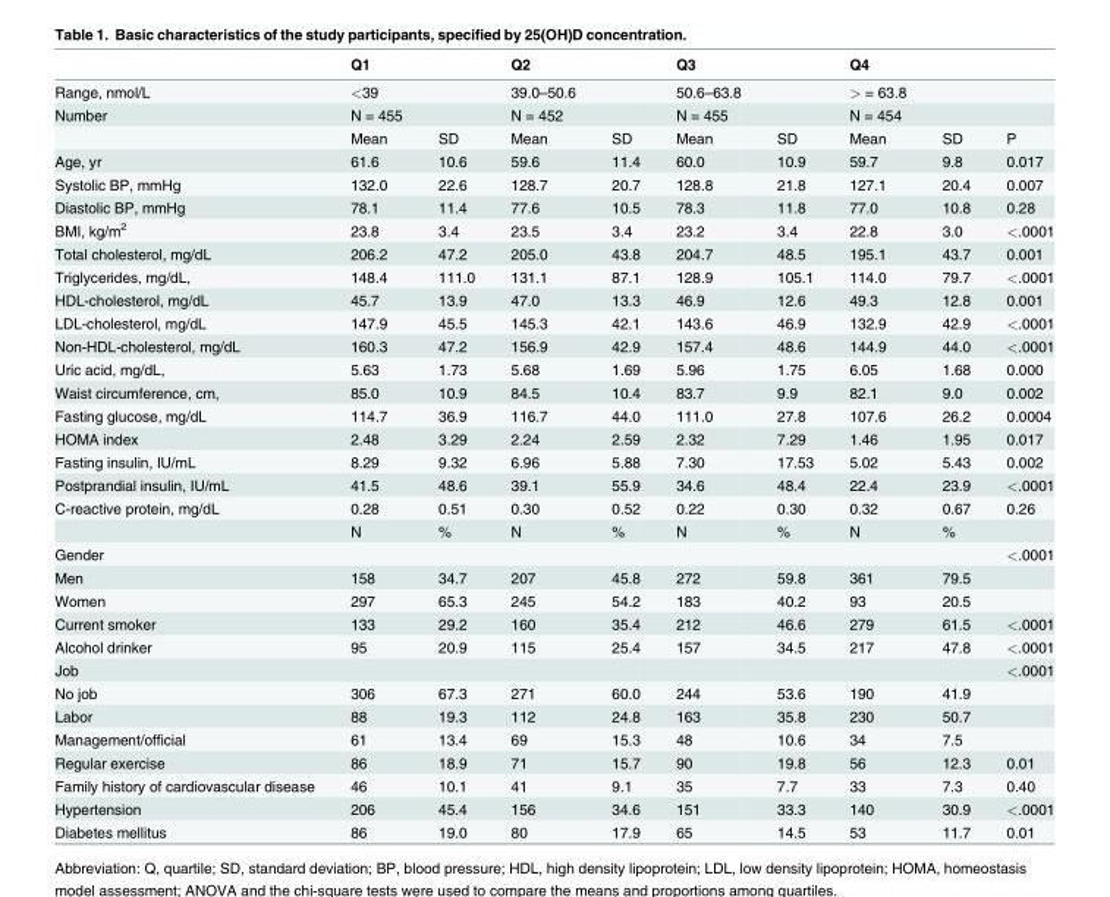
<table><thead><tr><td></td><td>Q1</td><td></td><td>Q2</td><td></td><td>Q3</td><td></td><td>Q4</td><td></td><td></td></tr></thead><tbody><tr><td>Range, nmol/L</td><td>&lt;39</td><td></td><td>39.0–50.6</td><td></td><td>50.6–63.8</td><td></td><td>&gt; = 63.8</td><td></td><td></td></tr><tr><td rowspan="2">Number</td><td>N = 455</td><td></td><td>N = 452</td><td></td><td>N = 455</td><td></td><td>N = 454</td><td></td><td></td></tr><tr><td>Mean</td><td>SD</td><td>Mean</td><td>SD</td><td>Mean</td><td>SD</td><td>Mean</td><td>SD</td><td>P</td></tr><tr><td>Age, yr</td><td>61.6</td><td>10.6</td><td>59.6</td><td>11.4</td><td>60.0</td><td>10.9</td><td>59.7</td><td>9.8</td><td>0.017</td></tr><tr><td>Systolic BP, mmHg</td><td>132.0</td><td>22.6</td><td>128.7</td><td>20.7</td><td>128.8</td><td>21.8</td><td>127.1</td><td>20.4</td><td>0.007</td></tr><tr><td>Diastolic BP, mmHg</td><td>78.1</td><td>11.4</td><td>77.6</td><td>10.5</td><td>78.3</td><td>11.8</td><td>77.0</td><td>10.8</td><td>0.28</td></tr><tr><td>BMI, kg/m<sup>2</sup></td><td>23.8</td><td>3.4</td><td>23.5</td><td>3.4</td><td>23.2</td><td>3.4</td><td>22.8</td><td>3.0</td><td>&lt;.0001</td></tr><tr><td>Total cholesterol, mg/dL</td><td>206.2</td><td>47.2</td><td>205.0</td><td>43.8</td><td>204.7</td><td>48.5</td><td>195.1</td><td>43.7</td><td>0.001</td></tr><tr><td>Triglycerides, mg/dL,</td><td>148.4</td><td>111.0</td><td>131.1</td><td>87.1</td><td>128.9</td><td>105.1</td><td>114.0</td><td>79.7</td><td>&lt;.0001</td></tr><tr><td>HDL-cholesterol, mg/dL</td><td>45.7</td><td>13.9</td><td>47.0</td><td>13.3</td><td>46.9</td><td>12.6</td><td>49.3</td><td>12.8</td><td>0.001</td></tr><tr><td>LDL-cholesterol, mg/dL</td><td>147.9</td><td>45.5</td><td>145.3</td><td>42.1</td><td>143.6</td><td>46.9</td><td>132.9</td><td>42.9</td><td>&lt;.0001</td></tr><tr><td>Non-HDL-cholesterol, mg/dL</td><td>160.3</td><td>47.2</td><td>156.9</td><td>42.9</td><td>157.4</td><td>48.6</td><td>144.9</td><td>44.0</td><td>&lt;.0001</td></tr><tr><td>Uric acid, mg/dL,</td><td>5.63</td><td>1.73</td><td>5.68</td><td>1.69</td><td>5.96</td><td>1.75</td><td>6.05</td><td>1.68</td><td>0.000</td></tr><tr><td>Waist circumference, cm,</td><td>85.0</td><td>10.9</td><td>84.5</td><td>10.4</td><td>83.7</td><td>9.9</td><td>82.1</td><td>9.0</td><td>0.002</td></tr><tr><td>Fasting glucose, mg/dL</td><td>114.7</td><td>36.9</td><td>116.7</td><td>44.0</td><td>111.0</td><td>27.8</td><td>107.6</td><td>26.2</td><td>0.0004</td></tr><tr><td>HOMA index</td><td>2.48</td><td>3.29</td><td>2.24</td><td>2.59</td><td>2.32</td><td>7.29</td><td>1.46</td><td>1.95</td><td>0.017</td></tr><tr><td>Fasting insulin, IU/mL</td><td>8.29</td><td>9.32</td><td>6.96</td><td>5.88</td><td>7.30</td><td>17.53</td><td>5.02</td><td>5.43</td><td>0.002</td></tr><tr><td>Postprandial insulin, IU/mL</td><td>41.5</td><td>48.6</td><td>39.1</td><td>55.9</td><td>34.6</td><td>48.4</td><td>22.4</td><td>23.9</td><td>&lt;.0001</td></tr><tr><td rowspan="2">C-reactive protein, mg/dL</td><td>0.28</td><td>0.51</td><td>0.30</td><td>0.52</td><td>0.22</td><td>0.30</td><td>0.32</td><td>0.67</td><td>0.26</td></tr><tr><td>N</td><td>%</td><td>N</td><td>%</td><td>N</td><td>%</td><td>N</td><td>%</td><td></td></tr><tr><td>Gender</td><td></td><td></td><td></td><td></td><td></td><td></td><td></td><td></td><td>&lt;.0001</td></tr><tr><td>Men</td><td>158</td><td>34.7</td><td>207</td><td>45.8</td><td>272</td><td>59.8</td><td>361</td><td>79.5</td><td></td></tr><tr><td>Women</td><td>297</td><td>65.3</td><td>245</td><td>54.2</td><td>183</td><td>40.2</td><td>93</td><td>20.5</td><td></td></tr><tr><td>Current smoker</td><td>133</td><td>29.2</td><td>160</td><td>35.4</td><td>212</td><td>46.6</td><td>279</td><td>61.5</td><td>&lt;.0001</td></tr><tr><td>Alcohol drinker</td><td>95</td><td>20.9</td><td>115</td><td>25.4</td><td>157</td><td>34.5</td><td>217</td><td>47.8</td><td>&lt;.0001</td></tr><tr><td>Job</td><td></td><td></td><td></td><td></td><td></td><td></td><td></td><td></td><td>&lt;.0001</td></tr><tr><td>No job</td><td>306</td><td>67.3</td><td>271</td><td>60.0</td><td>244</td><td>53.6</td><td>190</td><td>41.9</td><td></td></tr><tr><td>Labor</td><td>88</td><td>19.3</td><td>112</td><td>24.8</td><td>163</td><td>35.8</td><td>230</td><td>50.7</td><td></td></tr><tr><td>Management/official</td><td>61</td><td>13.4</td><td>69</td><td>15.3</td><td>48</td><td>10.6</td><td>34</td><td>7.5</td><td></td></tr><tr><td>Regular exercise</td><td>86</td><td>18.9</td><td>71</td><td>15.7</td><td>90</td><td>19.8</td><td>56</td><td>12.3</td><td>0.01</td></tr><tr><td>Family history of cardiovascular disease</td><td>46</td><td>10.1</td><td>41</td><td>9.1</td><td>35</td><td>7.7</td><td>33</td><td>7.3</td><td>0.40</td></tr><tr><td>Hypertension</td><td>206</td><td>45.4</td><td>156</td><td>34.6</td><td>151</td><td>33.3</td><td>140</td><td>30.9</td><td>&lt;.0001</td></tr><tr><td>Diabetes mellitus</td><td>86</td><td>19.0</td><td>80</td><td>17.9</td><td>65</td><td>14.5</td><td>53</td><td>11.7</td><td>0.01</td></tr></tbody></table>